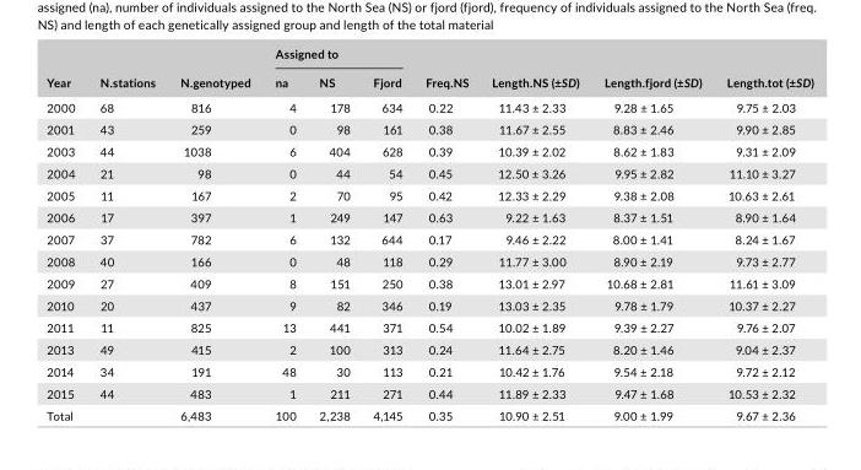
<table><thead><tr><td rowspan="2">Year</td><td rowspan="2">N.stations</td><td rowspan="2">N.genotyped</td><td colspan="3">Assigned to</td><td rowspan="2">Freq.NS</td><td rowspan="2">Length.NS (±SD)</td><td rowspan="2">Length.fjord (±SD)</td><td rowspan="2">Length.tot (±SD)</td></tr><tr><td>na</td><td>NS</td><td>Fjord</td></tr></thead><tbody><tr><td>2000</td><td>68</td><td>816</td><td>4</td><td>178</td><td>634</td><td>0.22</td><td>11.43 ± 2.33</td><td>9.28 ± 1.65</td><td>9.75 ± 2.03</td></tr><tr><td>2001</td><td>43</td><td>259</td><td>0</td><td>98</td><td>161</td><td>0.38</td><td>11.67 ± 2.55</td><td>8.83 ± 2.46</td><td>9.90 ± 2.85</td></tr><tr><td>2003</td><td>44</td><td>1038</td><td>6</td><td>404</td><td>628</td><td>0.39</td><td>10.39 ± 2.02</td><td>8.62 ± 1.83</td><td>9.31 ± 2.09</td></tr><tr><td>2004</td><td>21</td><td>98</td><td>0</td><td>44</td><td>54</td><td>0.45</td><td>12.50 ± 3.26</td><td>9.95 ± 2.82</td><td>11.10 ± 3.27</td></tr><tr><td>2005</td><td>11</td><td>167</td><td>2</td><td>70</td><td>95</td><td>0.42</td><td>12.33 ± 2.29</td><td>9.38 ± 2.08</td><td>10.63 ± 2.61</td></tr><tr><td>2006</td><td>17</td><td>397</td><td>1</td><td>249</td><td>147</td><td>0.63</td><td>9.22 ± 1.63</td><td>8.37 ± 1.51</td><td>8.90 ± 1.64</td></tr><tr><td>2007</td><td>37</td><td>782</td><td>6</td><td>132</td><td>644</td><td>0.17</td><td>9.46 ± 2.22</td><td>8.00 ± 1.41</td><td>8.24 ± 1.67</td></tr><tr><td>2008</td><td>40</td><td>166</td><td>0</td><td>48</td><td>118</td><td>0.29</td><td>11.77 ± 3.00</td><td>8.90 ± 2.19</td><td>9.73 ± 2.77</td></tr><tr><td>2009</td><td>27</td><td>409</td><td>8</td><td>151</td><td>250</td><td>0.38</td><td>13.01 ± 2.97</td><td>10.68 ± 2.81</td><td>11.61 ± 3.09</td></tr><tr><td>2010</td><td>20</td><td>437</td><td>9</td><td>82</td><td>346</td><td>0.19</td><td>13.03 ± 2.35</td><td>9.78 ± 1.79</td><td>10.37 ± 2.27</td></tr><tr><td>2011</td><td>11</td><td>825</td><td>13</td><td>441</td><td>371</td><td>0.54</td><td>10.02 ± 1.89</td><td>9.39 ± 2.27</td><td>9.76 ± 2.07</td></tr><tr><td>2013</td><td>49</td><td>415</td><td>2</td><td>100</td><td>313</td><td>0.24</td><td>11.64 ± 2.75</td><td>8.20 ± 1.46</td><td>9.04 ± 2.37</td></tr><tr><td>2014</td><td>34</td><td>191</td><td>48</td><td>30</td><td>113</td><td>0.21</td><td>10.42 ± 1.76</td><td>9.54 ± 2.18</td><td>9.72 ± 2.12</td></tr><tr><td>2015</td><td>44</td><td>483</td><td>1</td><td>211</td><td>271</td><td>0.44</td><td>11.89 ± 2.33</td><td>9.47 ± 1.68</td><td>10.53 ± 2.32</td></tr><tr><td>Total</td><td></td><td>6,483</td><td>100</td><td>2,238</td><td>4,145</td><td>0.35</td><td>10.90 ± 2.51</td><td>9.00 ± 1.99</td><td>9.67 ± 2.36</td></tr></tbody></table>